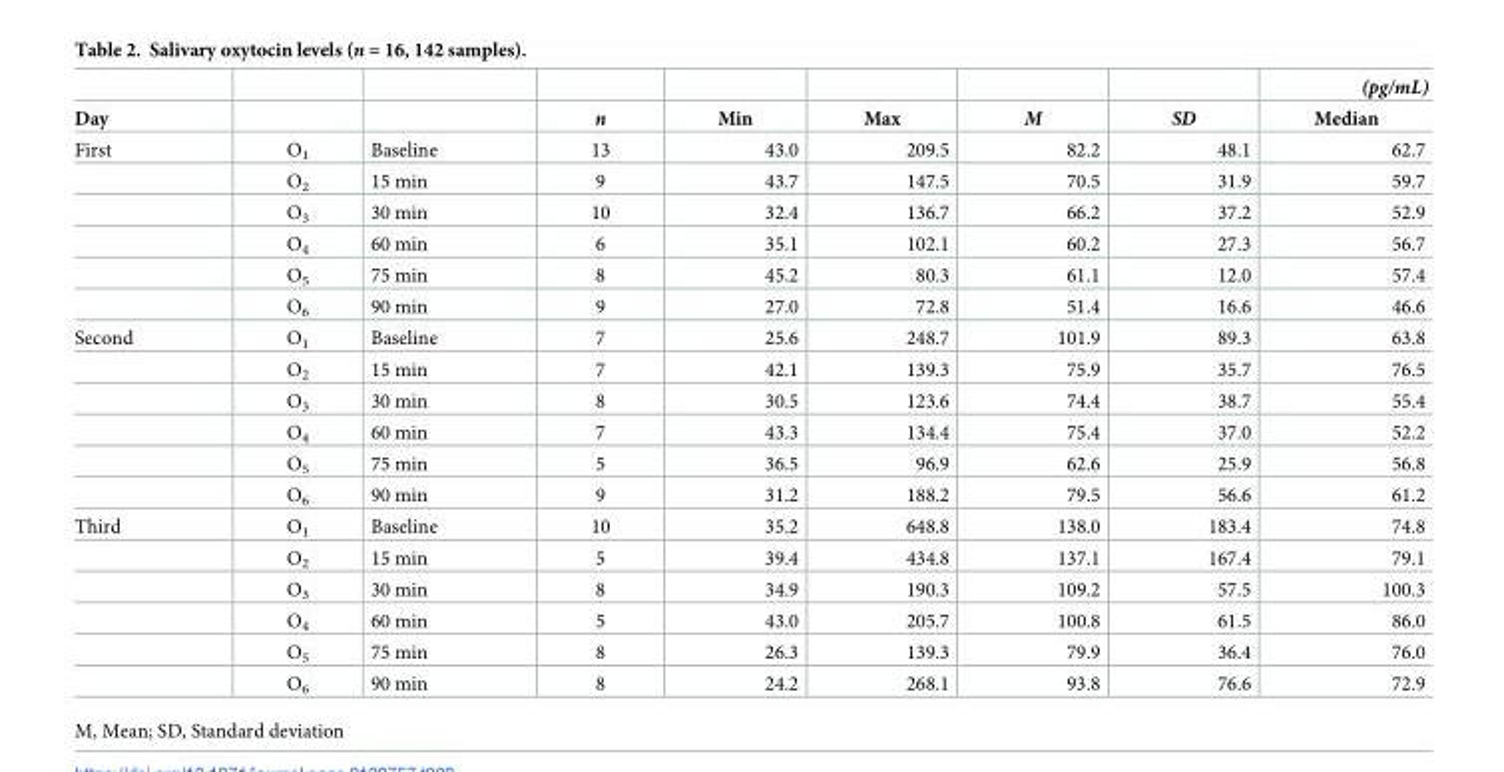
<table><thead><tr><td rowspan="2">Day</td><td rowspan="2"></td><td rowspan="2"></td><td rowspan="2">n</td><td rowspan="2">Min</td><td rowspan="2">Max</td><td rowspan="2">M</td><td rowspan="2">SD</td><td rowspan="2">(pg/mL) Median</td></tr><tr></tr></thead><tbody><tr><td rowspan="6">First</td><td>O<sub>1</sub></td><td>Baseline</td><td>13</td><td>43.0</td><td>209.5</td><td>82.2</td><td>48.1</td><td>62.7</td></tr><tr><td>O<sub>2</sub></td><td>15 min</td><td>9</td><td>43.7</td><td>147.5</td><td>70.5</td><td>31.9</td><td>59.7</td></tr><tr><td>O<sub>3</sub></td><td>30 min</td><td>10</td><td>32.4</td><td>136.7</td><td>66.2</td><td>37.2</td><td>52.9</td></tr><tr><td>O<sub>4</sub></td><td>60 min</td><td>6</td><td>35.1</td><td>102.1</td><td>60.2</td><td>27.3</td><td>56.7</td></tr><tr><td>O<sub>5</sub></td><td>75 min</td><td>8</td><td>45.2</td><td>80.3</td><td>61.1</td><td>12.0</td><td>57.4</td></tr><tr><td>O<sub>6</sub></td><td>90 min</td><td>9</td><td>27.0</td><td>72.8</td><td>51.4</td><td>16.6</td><td>46.6</td></tr><tr><td rowspan="6">Second</td><td>O<sub>1</sub></td><td>Baseline</td><td>7</td><td>25.6</td><td>248.7</td><td>101.9</td><td>89.3</td><td>63.8</td></tr><tr><td>O<sub>2</sub></td><td>15 min</td><td>7</td><td>42.1</td><td>139.3</td><td>75.9</td><td>35.7</td><td>76.5</td></tr><tr><td>O<sub>3</sub></td><td>30 min</td><td>8</td><td>30.5</td><td>123.6</td><td>74.4</td><td>38.7</td><td>55.4</td></tr><tr><td>O<sub>4</sub></td><td>60 min</td><td>7</td><td>43.3</td><td>134.4</td><td>75.4</td><td>37.0</td><td>52.2</td></tr><tr><td>O<sub>5</sub></td><td>75 min</td><td>5</td><td>36.5</td><td>96.9</td><td>62.6</td><td>25.9</td><td>56.8</td></tr><tr><td>O<sub>6</sub></td><td>90 min</td><td>9</td><td>31.2</td><td>188.2</td><td>79.5</td><td>56.6</td><td>61.2</td></tr><tr><td rowspan="6">Third</td><td>O<sub>1</sub></td><td>Baseline</td><td>10</td><td>35.2</td><td>648.8</td><td>138.0</td><td>183.4</td><td>74.8</td></tr><tr><td>O<sub>2</sub></td><td>15 min</td><td>5</td><td>39.4</td><td>434.8</td><td>137.1</td><td>167.4</td><td>79.1</td></tr><tr><td>O<sub>3</sub></td><td>30 min</td><td>8</td><td>34.9</td><td>190.3</td><td>109.2</td><td>57.5</td><td>100.3</td></tr><tr><td>O<sub>4</sub></td><td>60 min</td><td>5</td><td>43.0</td><td>205.7</td><td>100.8</td><td>61.5</td><td>86.0</td></tr><tr><td>O<sub>5</sub></td><td>75 min</td><td>8</td><td>26.3</td><td>139.3</td><td>79.9</td><td>36.4</td><td>76.0</td></tr><tr><td>O<sub>6</sub></td><td>90 min</td><td>8</td><td>24.2</td><td>268.1</td><td>93.8</td><td>76.6</td><td>72.9</td></tr></tbody></table>